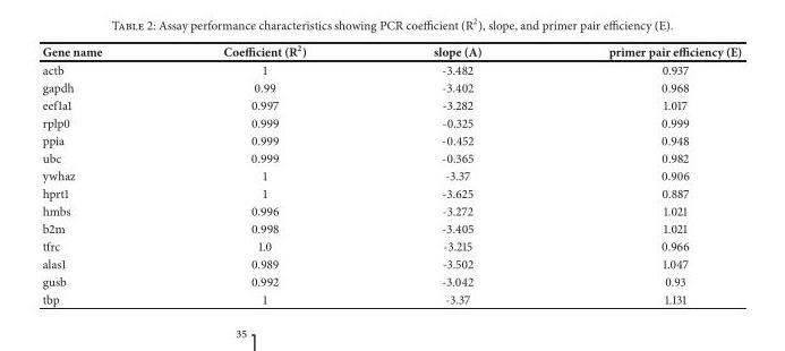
<table><thead><tr><td>Gene name</td><td>Coefficient (R<sup>2</sup>)</td><td>slope (A)</td><td>primer pair efficiency (E)</td></tr></thead><tbody><tr><td>actb</td><td>1</td><td>-3.482</td><td>0.937</td></tr><tr><td>gapdh</td><td>0.99</td><td>-3.402</td><td>0.968</td></tr><tr><td>eef1a1</td><td>0.997</td><td>-3.282</td><td>1.017</td></tr><tr><td>rplp0</td><td>0.999</td><td>-0.325</td><td>0.999</td></tr><tr><td>ppia</td><td>0.999</td><td>-0.452</td><td>0.948</td></tr><tr><td>ubc</td><td>0.999</td><td>-0.365</td><td>0.982</td></tr><tr><td>ywhaz</td><td>1</td><td>-3.37</td><td>0.906</td></tr><tr><td>hprt1</td><td>1</td><td>-3.625</td><td>0.887</td></tr><tr><td>hmbs</td><td>0.996</td><td>-3.272</td><td>1.021</td></tr><tr><td>b2m</td><td>0.998</td><td>-3.405</td><td>1.021</td></tr><tr><td>tfrc</td><td>1.0</td><td>-3.215</td><td>0.966</td></tr><tr><td>alas1</td><td>0.989</td><td>-3.502</td><td>1.047</td></tr><tr><td>gusb</td><td>0.992</td><td>-3.042</td><td>0.93</td></tr><tr><td>tbp</td><td>1</td><td>-3.37</td><td>1.131</td></tr></tbody></table>